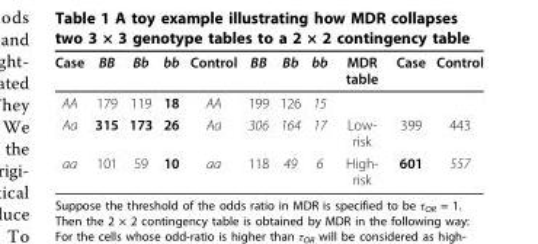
<table><thead><tr><td>Case</td><td>BB</td><td>Bb</td><td>bb</td><td>Control</td><td>BB</td><td>Bb</td><td>bb</td><td>MDR table</td><td>Case</td><td>Control</td></tr></thead><tbody><tr><td>AA</td><td>179</td><td>119</td><td>18</td><td>AA</td><td>199</td><td>126</td><td>15</td><td></td><td></td><td></td></tr><tr><td>Aa</td><td>315</td><td>173</td><td>26</td><td>Aa</td><td>306</td><td>164</td><td>17</td><td>Low- risk</td><td>399</td><td>443</td></tr><tr><td>aa</td><td>101</td><td>59</td><td>10</td><td>aa</td><td>118</td><td>49</td><td>6</td><td>High- risk</td><td>601</td><td>557</td></tr></tbody></table>